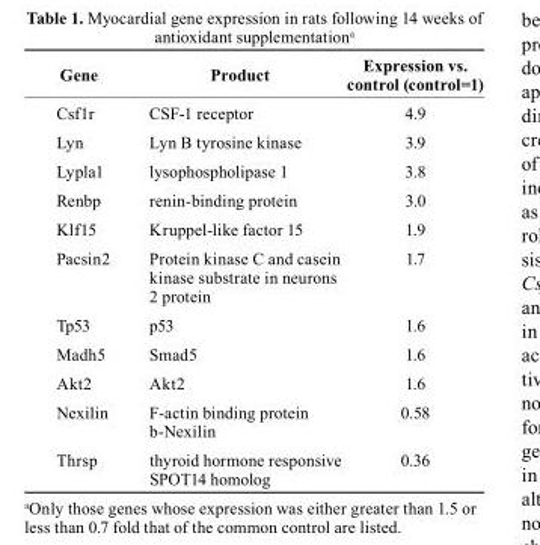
<table><thead><tr><td>Gene</td><td>Product</td><td>Expression vs. control (control=1)</td></tr></thead><tbody><tr><td>Csf1r</td><td>CSF-1 receptor</td><td>4.9</td></tr><tr><td>Lyn</td><td>Lyn B tyrosine kinase</td><td>3.9</td></tr><tr><td>Lypla1</td><td>lysophospholipase 1</td><td>3.8</td></tr><tr><td>Renbp</td><td>renin-binding protein</td><td>3.0</td></tr><tr><td>Klf15</td><td>Kruppel-like factor 15</td><td>1.9</td></tr><tr><td>Pacsin2</td><td>Protein kinase C and casein kinase substrate in neurons 2 protein</td><td>1.7</td></tr><tr><td>Tp53</td><td>p53</td><td>1.6</td></tr><tr><td>Madh5</td><td>Smad5</td><td>1.6</td></tr><tr><td>Akt2</td><td>Akt2</td><td>1.6</td></tr><tr><td>Nexilin</td><td>F-actin binding protein b-Nexilin</td><td>0.58</td></tr><tr><td>Thrsp</td><td>thyroid hormone responsive SPOT14 homolog</td><td>0.36</td></tr></tbody></table>